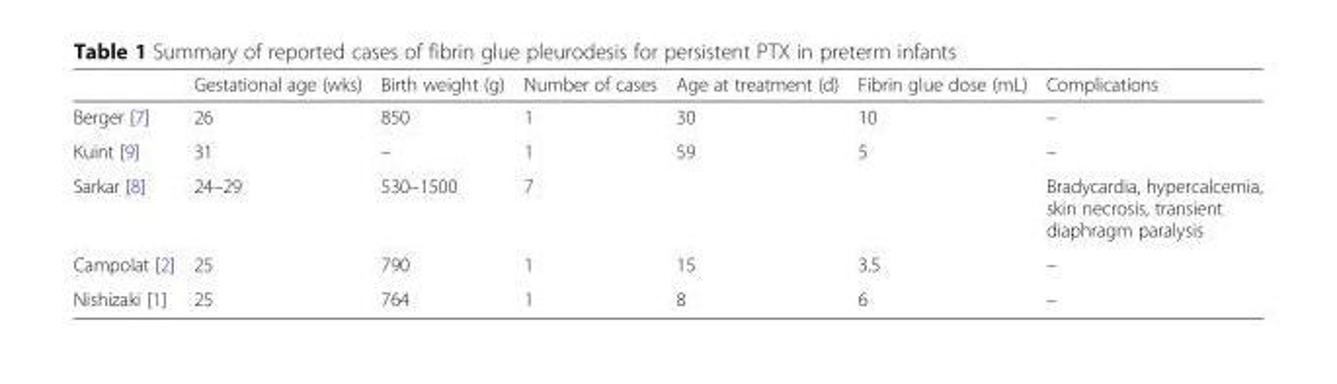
<table><thead><tr><td></td><td>Gestational age (wks)</td><td>Birth weight (g)</td><td>Number of cases</td><td>Age at treatment (d)</td><td>Fibrin glue dose (mL)</td><td>Complications</td></tr></thead><tbody><tr><td>Berger [7]</td><td>26</td><td>850</td><td>1</td><td>30</td><td>10</td><td>–</td></tr><tr><td>Kuint [9]</td><td>31</td><td>–</td><td>1</td><td>59</td><td>5</td><td>–</td></tr><tr><td>Sarkar [8]</td><td>24–29</td><td>530–1500</td><td>7</td><td></td><td></td><td>Bradycardia, hypercalcemia, skin necrosis, transient diaphragm paralysis</td></tr><tr><td>Campolat [2]</td><td>25</td><td>790</td><td>1</td><td>15</td><td>3.5</td><td>–</td></tr><tr><td>Nishizaki [1]</td><td>25</td><td>764</td><td>1</td><td>8</td><td>6</td><td>–</td></tr></tbody></table>